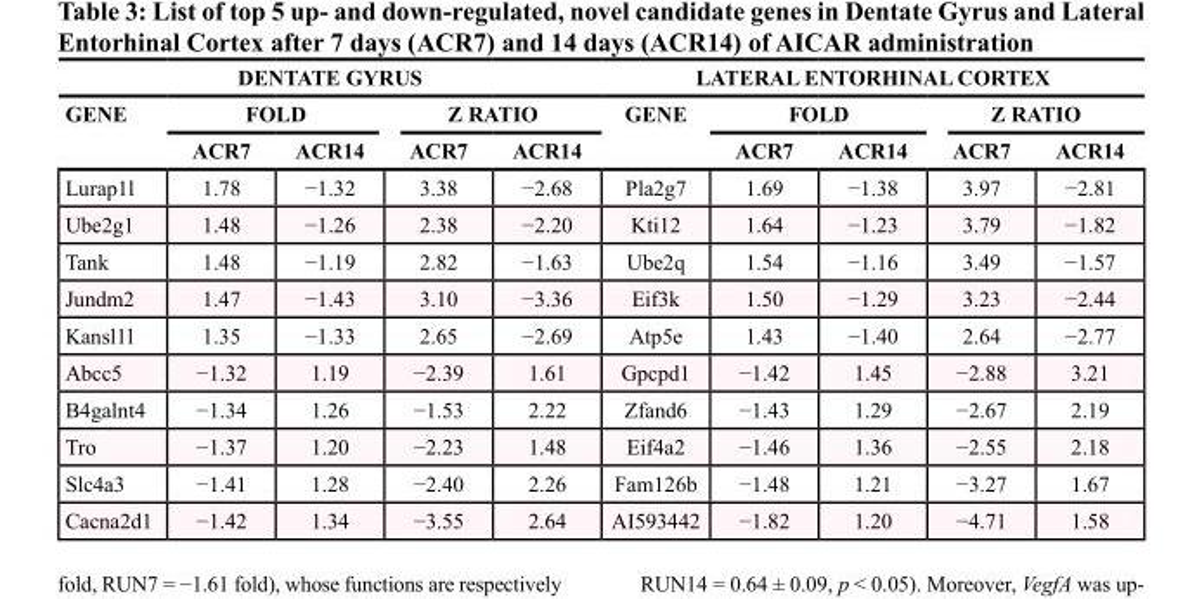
<table><thead><tr><td colspan="5">DENTATE GYRUS</td><td colspan="5">LATERAL ENTORHINAL CORTEX</td></tr><tr><td rowspan="2">GENE</td><td colspan="2">FOLD</td><td colspan="2">Z RATIO</td><td rowspan="2">GENE</td><td colspan="2">FOLD</td><td colspan="2">Z RATIO</td></tr><tr><td>ACR7</td><td>ACR14</td><td>ACR7</td><td>ACR14</td><td>ACR7</td><td>ACR14</td><td>ACR7</td><td>ACR14</td></tr></thead><tbody><tr><td>Lurap1l</td><td>1.78</td><td>−1.32</td><td>3.38</td><td>−2.68</td><td>Pla2g7</td><td>1.69</td><td>−1.38</td><td>3.97</td><td>−2.81</td></tr><tr><td>Ube2g1</td><td>1.48</td><td>−1.26</td><td>2.38</td><td>−2.20</td><td>Kti12</td><td>1.64</td><td>−1.23</td><td>3.79</td><td>−1.82</td></tr><tr><td>Tank</td><td>1.48</td><td>−1.19</td><td>2.82</td><td>−1.63</td><td>Ube2q</td><td>1.54</td><td>−1.16</td><td>3.49</td><td>−1.57</td></tr><tr><td>Jundm2</td><td>1.47</td><td>−1.43</td><td>3.10</td><td>−3.36</td><td>Eif3k</td><td>1.50</td><td>−1.29</td><td>3.23</td><td>−2.44</td></tr><tr><td>Kansl1l</td><td>1.35</td><td>−1.33</td><td>2.65</td><td>−2.69</td><td>Atp5e</td><td>1.43</td><td>−1.40</td><td>2.64</td><td>−2.77</td></tr><tr><td>Abcc5</td><td>−1.32</td><td>1.19</td><td>−2.39</td><td>1.61</td><td>Gpcpd1</td><td>−1.42</td><td>1.45</td><td>−2.88</td><td>3.21</td></tr><tr><td>B4galnt4</td><td>−1.34</td><td>1.26</td><td>−1.53</td><td>2.22</td><td>Zfand6</td><td>−1.43</td><td>1.29</td><td>−2.67</td><td>2.19</td></tr><tr><td>Tro</td><td>−1.37</td><td>1.20</td><td>−2.23</td><td>1.48</td><td>Eif4a2</td><td>−1.46</td><td>1.36</td><td>−2.55</td><td>2.18</td></tr><tr><td>Slc4a3</td><td>−1.41</td><td>1.28</td><td>−2.40</td><td>2.26</td><td>Fam126b</td><td>−1.48</td><td>1.21</td><td>−3.27</td><td>1.67</td></tr><tr><td>Cacna2d1</td><td>−1.42</td><td>1.34</td><td>−3.55</td><td>2.64</td><td>AI593442</td><td>−1.82</td><td>1.20</td><td>−4.71</td><td>1.58</td></tr></tbody></table>